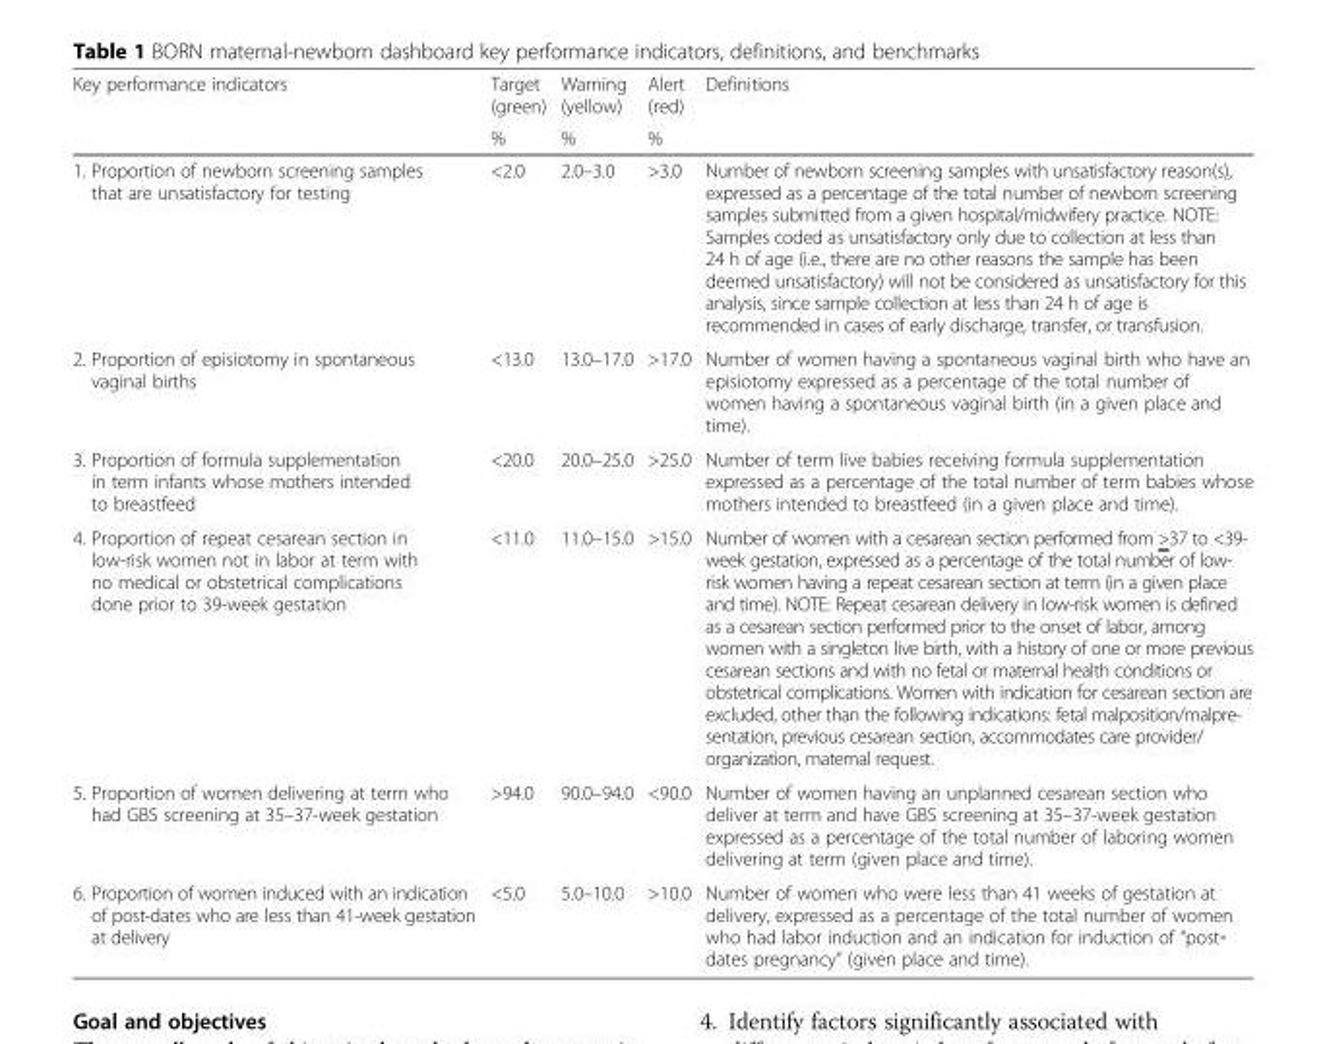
<table><thead><tr><td rowspan="2">Key performance indicators</td><td rowspan="2">Target (green) %</td><td rowspan="2">Warning (yellow) %</td><td rowspan="2">Alert (red) %</td><td rowspan="2">Definitions</td></tr><tr></tr></thead><tbody><tr><td>1. Proportion of newborn screening samples that are unsatisfactory for testing</td><td>&lt;2.0</td><td>2.0–3.0</td><td>&gt;3.0</td><td>Number of newborn screening samples with unsatisfactory reason(s), expressed as a percentage of the total number of newborn screening samples submitted from a given hospital/midwifery practice. NOTE: Samples coded as unsatisfactory only due to collection at less than 24 h of age (i.e., there are no other reasons the sample has been deemed unsatisfactory) will not be considered as unsatisfactory for this analysis, since sample collection at less than 24 h of age is recommended in cases of early discharge, transfer, or transfusion.</td></tr><tr><td>2. Proportion of episiotomy in spontaneous vaginal births</td><td>&lt;13.0</td><td>13.0–17.0</td><td>&gt;17.0</td><td>Number of women having a spontaneous vaginal birth who have an episiotomy expressed as a percentage of the total number of women having a spontaneous vaginal birth (in a given place and time).</td></tr><tr><td>3. Proportion of formula supplementation in term infants whose mothers intended to breastfeed</td><td>&lt;20.0</td><td>20.0–25.0</td><td>&gt;25.0</td><td>Number of term live babies receiving formula supplementation expressed as a percentage of the total number of term babies whose mothers intended to breastfeed (in a given place and time).</td></tr><tr><td>4. Proportion of repeat cesarean section in low-risk women not in labor at term with no medical or obstetrical complications done prior to 39-week gestation</td><td>&lt;11.0</td><td>11.0–15.0</td><td>&gt;15.0</td><td>Number of women with a cesarean section performed from &gt;37 to &lt;39- week gestation, expressed as a percentage of the total number of low- risk women having a repeat cesarean section at term (in a given place and time). NOTE: Repeat cesarean delivery in low-risk women is defined as a cesarean section performed prior to the onset of labor, among women with a singleton live birth, with a history of one or more previous cesarean sections and with no fetal or maternal health conditions or obstetrical complications. Women with indication for cesarean section are excluded, other than the following indications: fetal malposition/malpre- sentation, previous cesarean section, accommodates care provider/ organization, maternal request.</td></tr><tr><td>5. Proportion of women delivering at term who had GBS screening at 35–37-week gestation</td><td>&gt;94.0</td><td>90.0–94.0</td><td>&lt;90.0</td><td>Number of women having an unplanned cesarean section who deliver at term and have GBS screening at 35–37-week gestation expressed as a percentage of the total number of laboring women delivering at term (given place and time).</td></tr><tr><td>6. Proportion of women induced with an indication of post-dates who are less than 41-week gestation at delivery</td><td>&lt;5.0</td><td>5.0–10.0</td><td>&gt;10.0</td><td>Number of women who were less than 41 weeks of gestation at delivery, expressed as a percentage of the total number of women who had labor induction and an indication for induction of “post‐ dates pregnancy” (given place and time).</td></tr></tbody></table>